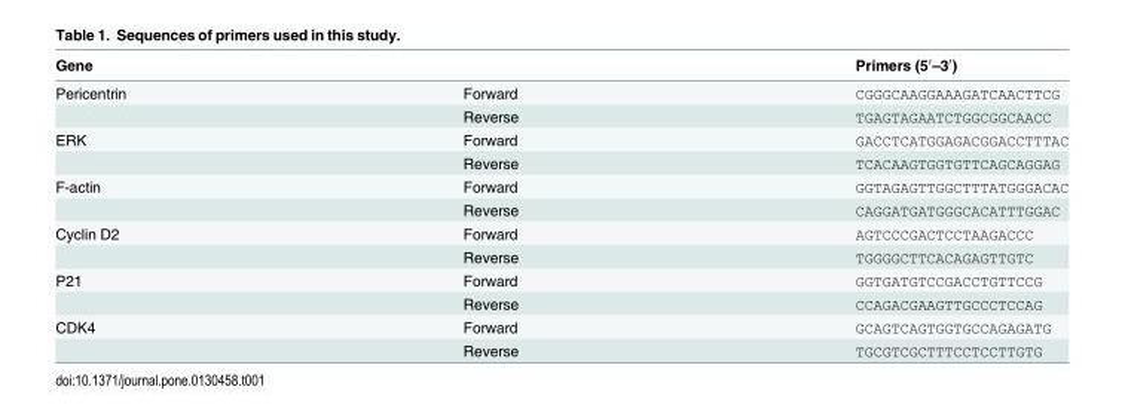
<table><thead><tr><td>Gene</td><td></td><td>Primers (5′–3′)</td></tr></thead><tbody><tr><td rowspan="2">Pericentrin</td><td>Forward</td><td>CGGGCAAGGAAAGATCAACTTCG</td></tr><tr><td>Reverse</td><td>TGAGTAGAATCTGGCGGCAACC</td></tr><tr><td rowspan="2">ERK</td><td>Forward</td><td>GACCTCATGGAGACGGACCTTTAC</td></tr><tr><td>Reverse</td><td>TCACAAGTGGTGTTCAGCAGGAG</td></tr><tr><td rowspan="2">F-actin</td><td>Forward</td><td>GGTAGAGTTGGCTTTATGGGACAC</td></tr><tr><td>Reverse</td><td>CAGGATGATGGGCACATTTGGAC</td></tr><tr><td rowspan="2">Cyclin D2</td><td>Forward</td><td>AGTCCCGACTCCTAAGACCC</td></tr><tr><td>Reverse</td><td>TGGGGCTTCACAGAGTTGTC</td></tr><tr><td rowspan="2">P21</td><td>Forward</td><td>GGTGATGTCCGACCTGTTCCG</td></tr><tr><td>Reverse</td><td>CCAGACGAAGTTGCCCTCCAG</td></tr><tr><td rowspan="2">CDK4</td><td>Forward</td><td>GCAGTCAGTGGTGCCAGAGATG</td></tr><tr><td>Reverse</td><td>TGCGTCGCTTTCCTCCTTGTG</td></tr></tbody></table>